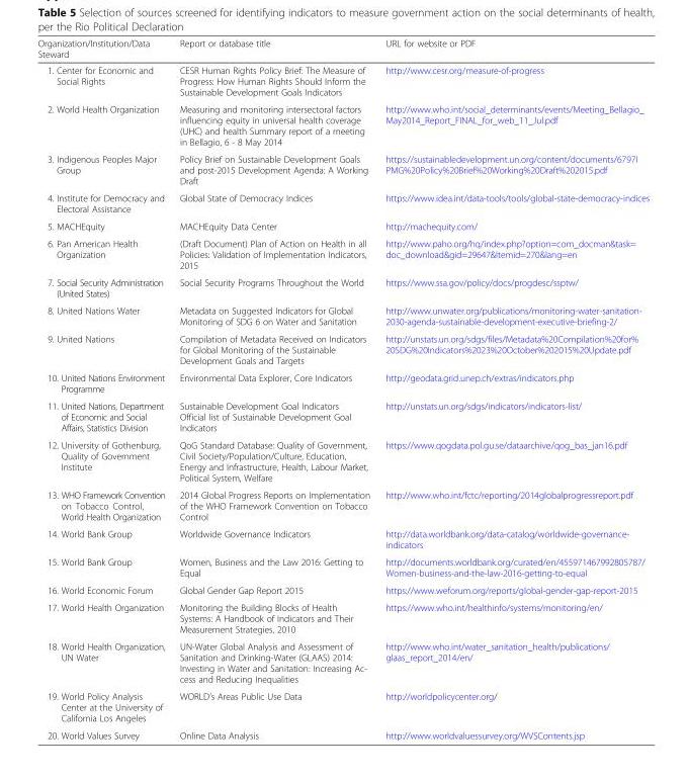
<table><thead><tr><td>Organization/Institution/Data Steward</td><td>Report or database title</td><td>URL for website or PDF</td></tr></thead><tbody><tr><td>1. Center for Economic and Social Rights</td><td>CESR Human Rights Policy Brief: The Measure of Progress: How Human Rights Should Inform the Sustainable Development Goals Indicators</td><td>http://www.cesr.org/measure-of-progress</td></tr><tr><td>2. World Health Organization</td><td>Measuring and monitoring intersectoral factors influencing equity in universal health coverage (UHC) and health Summary report of a meeting in Bellagio, 6 - 8 May 2014</td><td>http://www.who.int/social_determinants/events/Meeting_Bellagio_ May2014_Report_FINAL_for_web_11_Jul.pdf</td></tr><tr><td>3. Indigenous Peoples Major Group</td><td>Policy Brief on Sustainable Development Goals and post-2015 Development Agenda: A Working Draft</td><td>https://sustainabledevelopment.un.org/content/documents/6797I PMG%20Policy%20Brief%20Working%20Draft%202015.pdf</td></tr><tr><td>4. Institute for Democracy and Electoral Assistance</td><td>Global State of Democracy Indices</td><td>https://www.idea.int/data-tools/tools/global-state-democracy-indices</td></tr><tr><td>5. MACHEquity</td><td>MACHEquity Data Center</td><td>http://machequity.com/</td></tr><tr><td>6. Pan American Health Organization</td><td>(Draft Document) Plan of Action on Health in all Policies: Validation of Implementation Indicators, 2015</td><td>http://www.paho.org/hq/index.php?option=com_docman&amp;task= doc_download&amp;gid=29647&amp;Itemid=270&amp;lang=en</td></tr><tr><td>7. Social Security Administration (United States)</td><td>Social Security Programs Throughout the World</td><td>https://www.ssa.gov/policy/docs/progdesc/ssptw/</td></tr><tr><td>8. United Nations Water</td><td>Metadata on Suggested Indicators for Global Monitoring of SDG 6 on Water and Sanitation</td><td>http://www.unwater.org/publications/monitoring-water-sanitation- 2030-agenda-sustainable-development-executive-briefing-2/</td></tr><tr><td>9. United Nations</td><td>Compilation of Metadata Received on Indicators for Global Monitoring of the Sustainable Development Goals and Targets</td><td>http://unstats.un.org/sdgs/files/Metadata%20Compilation%20for% 20SDG%20Indicators%2023%20October%202015%20Update.pdf</td></tr><tr><td>10. United Nations Environment Programme</td><td>Environmental Data Explorer, Core Indicators</td><td>http://geodata.grid.unep.ch/extras/indicators.php</td></tr><tr><td>11. United Nations, Department of Economic and Social Affairs, Statistics Division</td><td>Sustainable Development Goal Indicators Official list of Sustainable Development Goal Indicators</td><td>http://unstats.un.org/sdgs/indicators/indicators-list/</td></tr><tr><td>12. University of Gothenburg, Quality of Government Institute</td><td>QoG Standard Database: Quality of Government, Civil Society/Population/Culture, Education, Energy and Infrastructure, Health, Labour Market, Political System, Welfare</td><td>https://www.qogdata.pol.gu.se/dataarchive/qog_bas_jan16.pdf</td></tr><tr><td>13. WHO Framework Convention on Tobacco Control, World Health Organization</td><td>2014 Global Progress Reports on Implementation of the WHO Framework Convention on Tobacco Control</td><td>http://www.who.int/fctc/reporting/2014globalprogressreport.pdf</td></tr><tr><td>14. World Bank Group</td><td>Worldwide Governance Indicators</td><td>http://data.worldbank.org/data-catalog/worldwide-governance- indicators</td></tr><tr><td>15. World Bank Group</td><td>Women, Business and the Law 2016: Getting to Equal</td><td>http://documents.worldbank.org/curated/en/455971467992805787/ Women-business-and-the-law-2016-getting-to-equal</td></tr><tr><td>16. World Economic Forum</td><td>Global Gender Gap Report 2015</td><td>https://www.weforum.org/reports/global-gender-gap-report-2015</td></tr><tr><td>17. World Health Organization</td><td>Monitoring the Building Blocks of Health Systems: A Handbook of Indicators and Their Measurement Strategies, 2010</td><td>https://www.who.int/healthinfo/systems/monitoring/en/</td></tr><tr><td>18. World Health Organization, UN Water</td><td>UN-Water Global Analysis and Assessment of Sanitation and Drinking-Water (GLAAS) 2014: Investing in Water and Sanitation: Increasing Ac- cess and Reducing Inequalities</td><td>http://www.who.int/water_sanitation_health/publications/ glaas_report_2014/en/</td></tr><tr><td>19. World Policy Analysis Center at the University of California Los Angeles</td><td>WORLD’s Areas Public Use Data</td><td>http://worldpolicycenter.org/</td></tr><tr><td>20. World Values Survey</td><td>Online Data Analysis</td><td>http://www.worldvaluessurvey.org/WVSContents.jsp</td></tr></tbody></table>